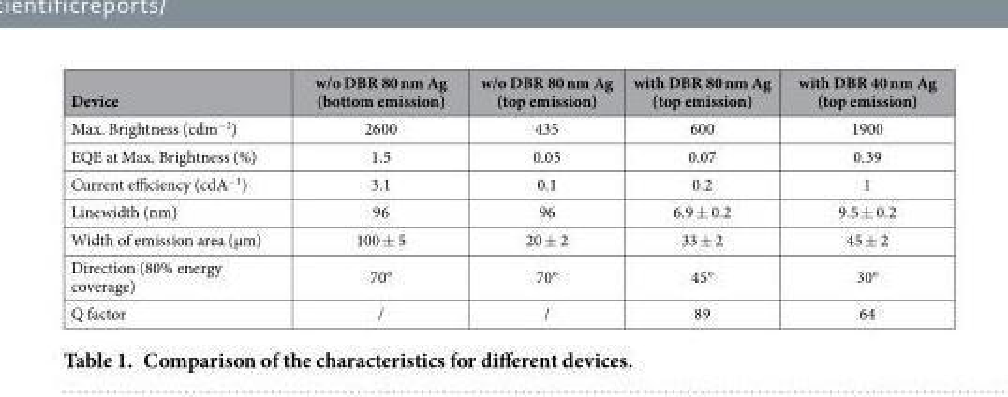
<table><thead><tr><td>Device</td><td>w/o DBR 80 nm Ag (bottom emission)</td><td>w/o DBR 80 nm Ag (top emission)</td><td>with DBR 80 nm Ag (top emission)</td><td>with DBR 40 nm Ag (top emission)</td></tr></thead><tbody><tr><td>Max. Brightness (cdm<sup>−2</sup>)</td><td>2600</td><td>435</td><td>600</td><td>1900</td></tr><tr><td>EQE at Max. Brightness (%)</td><td>1.5</td><td>0.05</td><td>0.07</td><td>0.39</td></tr><tr><td>Current efficiency (cdA<sup>−1</sup>)</td><td>3.1</td><td>0.1</td><td>0.2</td><td>1</td></tr><tr><td>Linewidth (nm)</td><td>96</td><td>96</td><td>6.9 ± 0.2</td><td>9.5 ± 0.2</td></tr><tr><td>Width of emission area (μm)</td><td>100 ± 5</td><td>20 ± 2</td><td>33 ± 2</td><td>45 ± 2</td></tr><tr><td>Direction (80% energy coverage)</td><td>70°</td><td>70°</td><td>45°</td><td>30°</td></tr><tr><td>Q factor</td><td>/</td><td>/</td><td>89</td><td>64</td></tr></tbody></table>